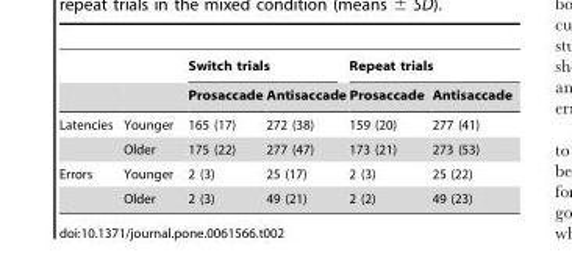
<table><thead><tr><td rowspan="2"></td><td rowspan="2"></td><td colspan="2">Switch trials</td><td colspan="2">Repeat trials</td></tr><tr><td>Prosaccade</td><td>Antisaccade</td><td>Prosaccade</td><td>Antisaccade</td></tr></thead><tbody><tr><td rowspan="2">Latencies</td><td>Younger</td><td>165 (17)</td><td>272 (38)</td><td>159 (20)</td><td>277 (41)</td></tr><tr><td>Older</td><td>175 (22)</td><td>277 (47)</td><td>173 (21)</td><td>273 (53)</td></tr><tr><td rowspan="2">Errors</td><td>Younger</td><td>2 (3)</td><td>25 (17)</td><td>2 (3)</td><td>25 (22)</td></tr><tr><td>Older</td><td>2 (3)</td><td>49 (21)</td><td>2 (2)</td><td>49 (23)</td></tr></tbody></table>